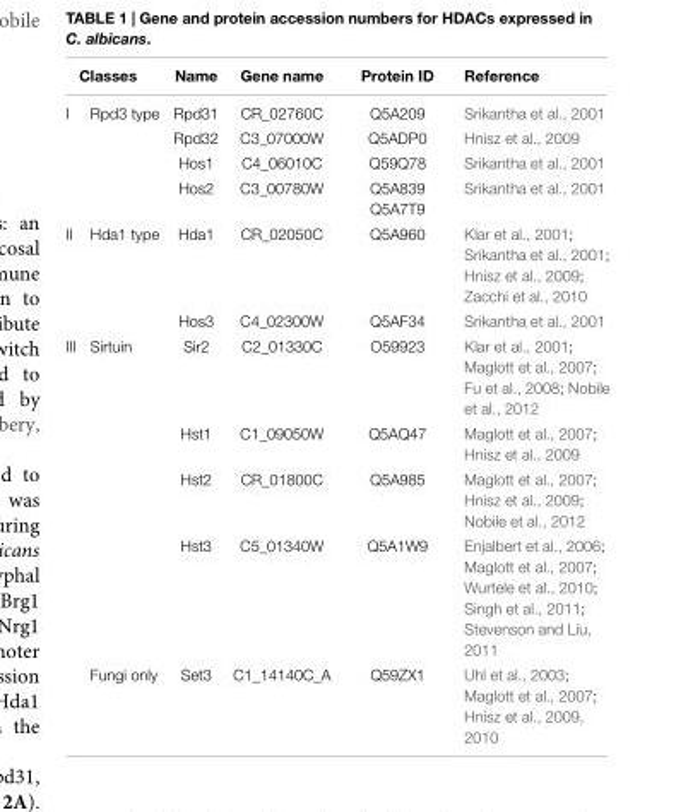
<table><thead><tr><td colspan="2">Classes</td><td rowspan="2">Name Rpd31</td><td rowspan="2">Gene name CR_02760C</td><td rowspan="2">Protein ID Q5A209</td><td rowspan="2">Reference Srikantha et al., 2001</td></tr><tr><td>I</td><td>Rpd3 type</td></tr></thead><tbody><tr><td></td><td></td><td>Rpd32</td><td>C3_07000W</td><td>Q5ADP0</td><td>Hnisz et al., 2009</td></tr><tr><td></td><td></td><td>Hos1</td><td>C4_06010C</td><td>Q59Q78</td><td>Srikantha et al., 2001</td></tr><tr><td></td><td></td><td>Hos2</td><td>C3_00780W</td><td>Q5A839 Q5A7T9</td><td>Srikantha et al., 2001</td></tr><tr><td rowspan="2">II</td><td>Hda1 type</td><td>Hda1</td><td>CR_02050C</td><td>Q5A960</td><td>Klar et al., 2001; Srikantha et al., 2001; Hnisz et al., 2009; Zacchi et al., 2010</td></tr><tr><td></td><td>Hos3</td><td>C4_02300W</td><td>Q5AF34</td><td>Srikantha et al., 2001</td></tr><tr><td rowspan="5">III</td><td>Sirtuin</td><td>Sir2</td><td>C2_01330C</td><td>O59923</td><td>Klar et al., 2001; Maglott et al., 2007; Fu et al., 2008; Nobile et al., 2012</td></tr><tr><td></td><td>Hst1</td><td>C1_09050W</td><td>Q5AQ47</td><td>Maglott et al., 2007; Hnisz et al., 2009</td></tr><tr><td></td><td>Hst2</td><td>CR_01800C</td><td>Q5A985</td><td>Maglott et al., 2007; Hnisz et al., 2009; Nobile et al., 2012</td></tr><tr><td></td><td>Hst3</td><td>C5_01340W</td><td>Q5A1W9</td><td>Enjalbert et al., 2006; Maglott et al., 2007; Wurtele et al., 2010; Singh et al., 2011; Stevenson and Liu, 2011</td></tr><tr><td>Fungi only</td><td>Set3</td><td>C1_14140C_A</td><td>Q59ZX1</td><td>Uhl et al., 2003; Maglott et al., 2007; Hnisz et al., 2009, 2010</td></tr></tbody></table>